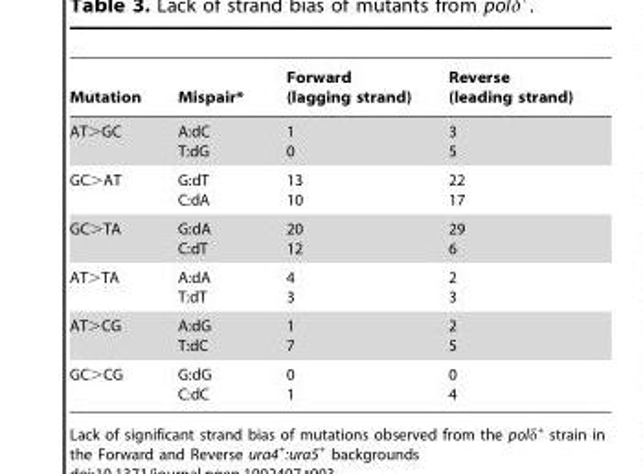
<table><thead><tr><td>Mutation</td><td>Mispair*</td><td>Forward (lagging strand)</td><td>Reverse (leading strand)</td></tr></thead><tbody><tr><td>AT&gt;GC</td><td>A:dC T:dG</td><td>1 0</td><td>3 5</td></tr><tr><td>GC&gt;AT</td><td>G:dT C:dA</td><td>13 10</td><td>22 17</td></tr><tr><td>GC&gt;TA</td><td>G:dA C:dT</td><td>20 12</td><td>29 6</td></tr><tr><td>AT&gt;TA</td><td>A:dA T:dT</td><td>4 3</td><td>2 3</td></tr><tr><td>AT&gt;CG</td><td>A:dG T:dC</td><td>1 7</td><td>2 5</td></tr><tr><td>GC&gt;CG</td><td>G:dG C:dC</td><td>0 1</td><td>0 4</td></tr></tbody></table>